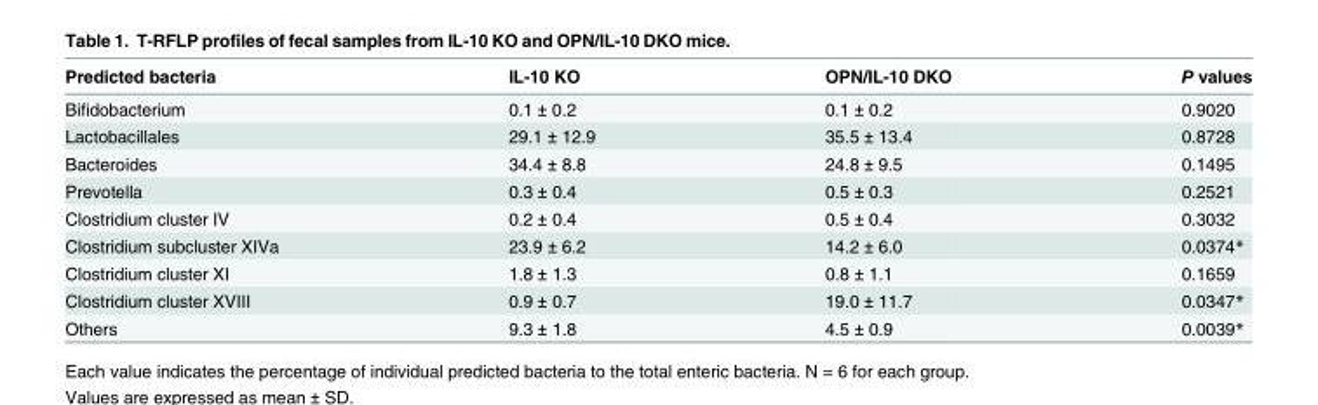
<table><thead><tr><td>Predicted bacteria</td><td>IL-10 KO</td><td>OPN/IL-10 DKO</td><td>P values</td></tr></thead><tbody><tr><td>Bifidobacterium</td><td>0.1 ± 0.2</td><td>0.1 ± 0.2</td><td>0.9020</td></tr><tr><td>Lactobacillales</td><td>29.1 ± 12.9</td><td>35.5 ± 13.4</td><td>0.8728</td></tr><tr><td>Bacteroides</td><td>34.4 ± 8.8</td><td>24.8 ± 9.5</td><td>0.1495</td></tr><tr><td>Prevotella</td><td>0.3 ± 0.4</td><td>0.5 ± 0.3</td><td>0.2521</td></tr><tr><td>Clostridium cluster IV</td><td>0.2 ± 0.4</td><td>0.5 ± 0.4</td><td>0.3032</td></tr><tr><td>Clostridium subcluster XIVa</td><td>23.9 ± 6.2</td><td>14.2 ± 6.0</td><td>0.0374*</td></tr><tr><td>Clostridium cluster XI</td><td>1.8 ± 1.3</td><td>0.8 ± 1.1</td><td>0.1659</td></tr><tr><td>Clostridium cluster XVIII</td><td>0.9 ± 0.7</td><td>19.0 ± 11.7</td><td>0.0347*</td></tr><tr><td>Others</td><td>9.3 ± 1.8</td><td>4.5 ± 0.9</td><td>0.0039*</td></tr></tbody></table>